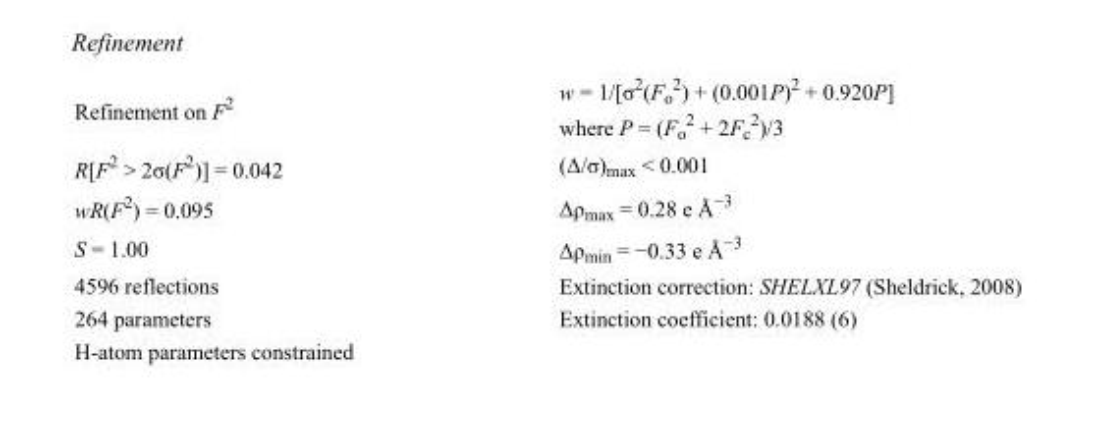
<table><tbody><tr><td>Refinement on F<sup>2</sup></td><td>w = 1/[σ<sup>2</sup>(F<sub>o</sub> <sup>2</sup>) + (0.001P)<sup>2</sup> + 0.920P] where P = (F<sub>o</sub> <sup>2</sup> + 2F<sub>c</sub> <sup>2</sup>)/3</td></tr><tr><td>R[F<sup>2</sup> &gt; 2σ(F<sup>2</sup>)] = 0.042</td><td>(Δ/σ)<sub>max</sub> &lt; 0.001</td></tr><tr><td>wR(F<sup>2</sup>) = 0.095</td><td>Δρ<sub>max</sub> = 0.28 e Å<sup>−3</sup></td></tr><tr><td>S = 1.00</td><td>Δρ<sub>min</sub> = −0.33 e Å<sup>−3</sup></td></tr><tr><td>4596 reflections</td><td>Extinction correction: SHELXL97 (Sheldrick, 2008)</td></tr><tr><td>264 parameters</td><td>Extinction coefficient: 0.0188 (6)</td></tr><tr><td>H-atom parameters constrained</td><td></td></tr></tbody></table>